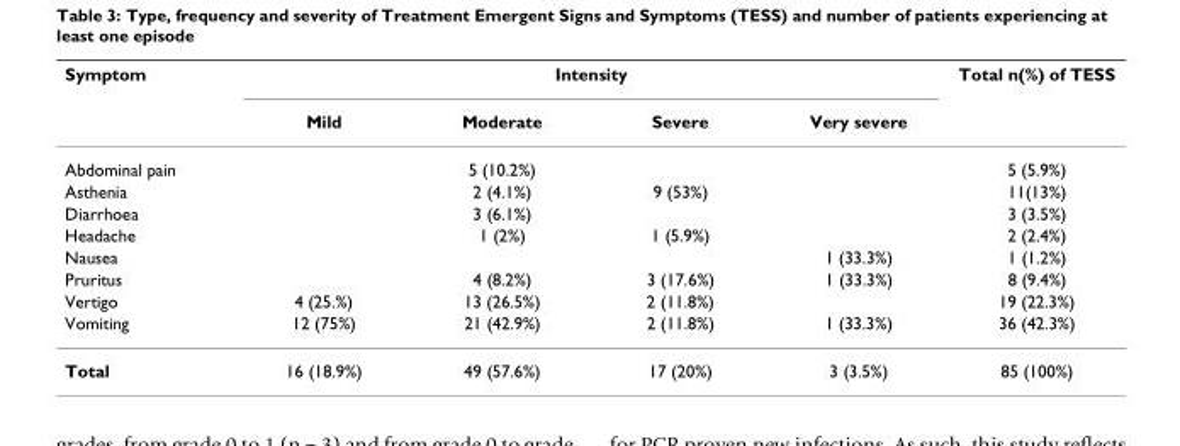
<table><thead><tr><td rowspan="2">Symptom</td><td colspan="4">Intensity</td><td rowspan="2">Total n(%) of TESS</td></tr><tr><td>Mild</td><td>Moderate</td><td>Severe</td><td>Very severe</td></tr></thead><tbody><tr><td>Abdominal pain</td><td></td><td>5 (10.2%)</td><td></td><td></td><td>5 (5.9%)</td></tr><tr><td>Asthenia</td><td></td><td>2 (4.1%)</td><td>9 (53%)</td><td></td><td>11(13%)</td></tr><tr><td>Diarrhoea</td><td></td><td>3 (6.1%)</td><td></td><td></td><td>3 (3.5%)</td></tr><tr><td>Headache</td><td></td><td>1 (2%)</td><td>1 (5.9%)</td><td></td><td>2 (2.4%)</td></tr><tr><td>Nausea</td><td></td><td></td><td></td><td>1 (33.3%)</td><td>1 (1.2%)</td></tr><tr><td>Pruritus</td><td></td><td>4 (8.2%)</td><td>3 (17.6%)</td><td>1 (33.3%)</td><td>8 (9.4%)</td></tr><tr><td>Vertigo</td><td>4 (25.%)</td><td>13 (26.5%)</td><td>2 (11.8%)</td><td></td><td>19 (22.3%)</td></tr><tr><td>Vomiting</td><td>12 (75%)</td><td>21 (42.9%)</td><td>2 (11.8%)</td><td>1 (33.3%)</td><td>36 (42.3%)</td></tr><tr><td>Total</td><td>16 (18.9%)</td><td>49 (57.6%)</td><td>17 (20%)</td><td>3 (3.5%)</td><td>85 (100%)</td></tr></tbody></table>